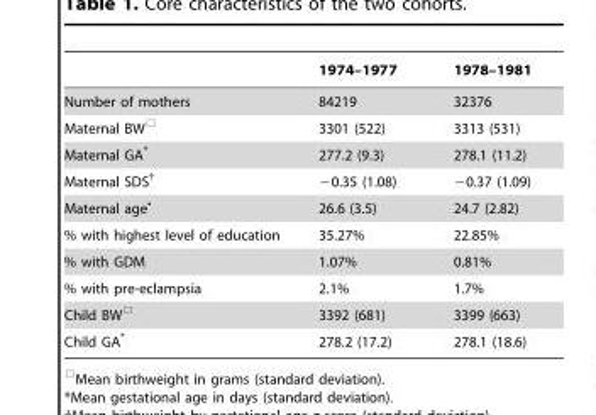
<table><thead><tr><td></td><td>1974–1977</td><td>1978–1981</td></tr></thead><tbody><tr><td>Number of mothers</td><td>84219</td><td>32376</td></tr><tr><td>Maternal BW□</td><td>3301 (522)</td><td>3313 (531)</td></tr><tr><td>Maternal GA*</td><td>277.2 (9.3)</td><td>278.1 (11.2)</td></tr><tr><td>Maternal SDS†</td><td>−0.35 (1.08)</td><td>−0.37 (1.09)</td></tr><tr><td>Maternal age•</td><td>26.6 (3.5)</td><td>24.7 (2.82)</td></tr><tr><td>% with highest level of education</td><td>35.27%</td><td>22.85%</td></tr><tr><td>% with GDM</td><td>1.07%</td><td>0.81%</td></tr><tr><td>% with pre-eclampsia</td><td>2.1%</td><td>1.7%</td></tr><tr><td>Child BW□</td><td>3392 (681)</td><td>3399 (663)</td></tr><tr><td>Child GA*</td><td>278.2 (17.2)</td><td>278.1 (18.6)</td></tr></tbody></table>